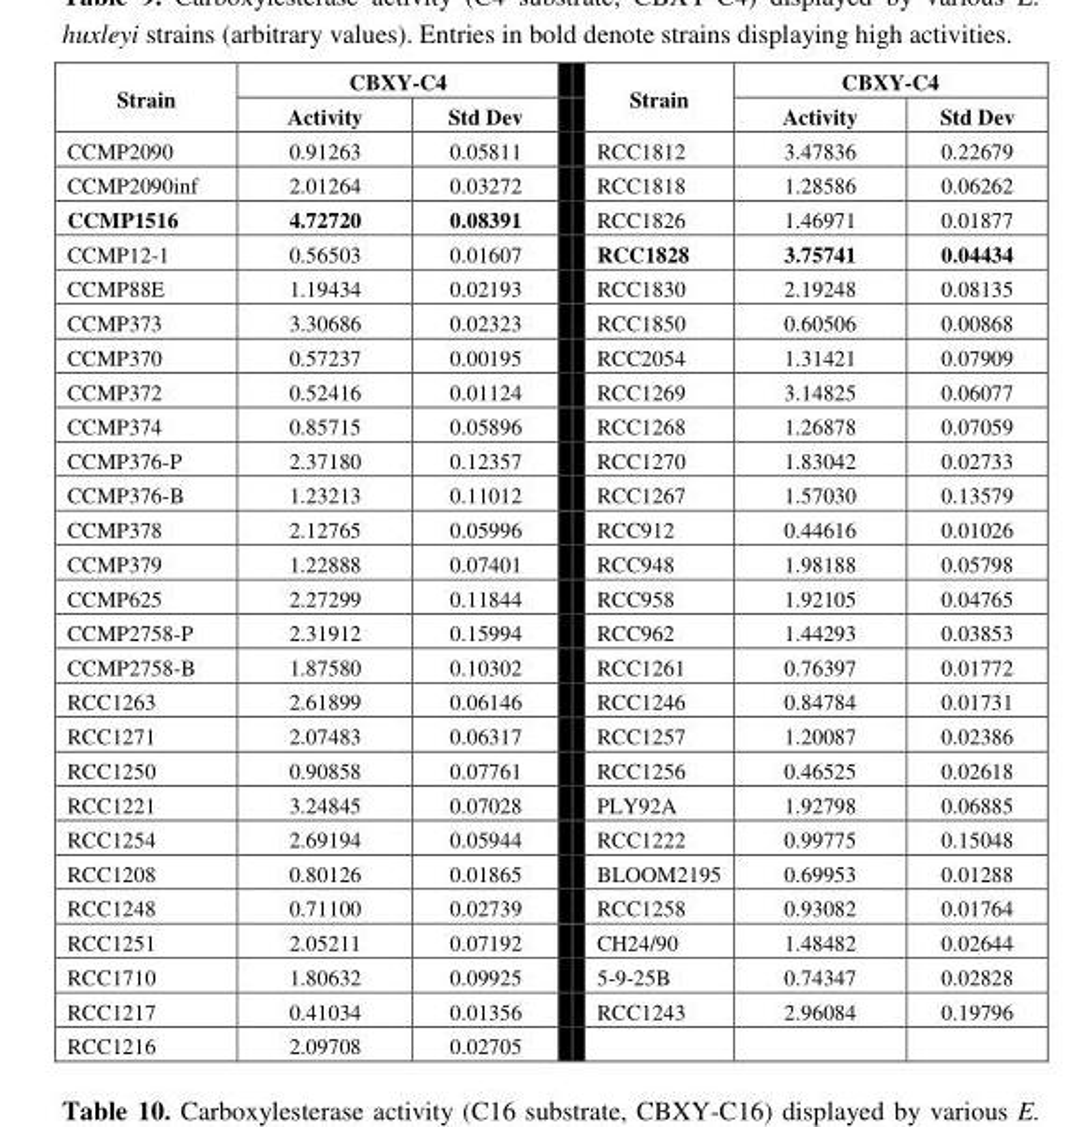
<table><thead><tr><td rowspan="2">Strain</td><td colspan="2">CBXY-C4</td><td rowspan="2">Strain</td><td colspan="2">CBXY-C4</td></tr><tr><td>Activity</td><td>Std Dev</td><td>Activity</td><td>Std Dev</td></tr></thead><tbody><tr><td>CCMP2090</td><td>0.91263</td><td>0.05811</td><td>RCC1812</td><td>3.47836</td><td>0.22679</td></tr><tr><td>CCMP2090inf</td><td>2.01264</td><td>0.03272</td><td>RCC1818</td><td>1.28586</td><td>0.06262</td></tr><tr><td>CCMP1516</td><td>4.72720</td><td>0.08391</td><td>RCC1826</td><td>1.46971</td><td>0.01877</td></tr><tr><td>CCMP12-1</td><td>0.56503</td><td>0.01607</td><td>RCC1828</td><td>3.75741</td><td>0.04434</td></tr><tr><td>CCMP88E</td><td>1.19434</td><td>0.02193</td><td>RCC1830</td><td>2.19248</td><td>0.08135</td></tr><tr><td>CCMP373</td><td>3.30686</td><td>0.02323</td><td>RCC1850</td><td>0.60506</td><td>0.00868</td></tr><tr><td>CCMP370</td><td>0.57237</td><td>0.00195</td><td>RCC2054</td><td>1.31421</td><td>0.07909</td></tr><tr><td>CCMP372</td><td>0.52416</td><td>0.01124</td><td>RCC1269</td><td>3.14825</td><td>0.06077</td></tr><tr><td>CCMP374</td><td>0.85715</td><td>0.05896</td><td>RCC1268</td><td>1.26878</td><td>0.07059</td></tr><tr><td>CCMP376-P</td><td>2.37180</td><td>0.12357</td><td>RCC1270</td><td>1.83042</td><td>0.02733</td></tr><tr><td>CCMP376-B</td><td>1.23213</td><td>0.11012</td><td>RCC1267</td><td>1.57030</td><td>0.13579</td></tr><tr><td>CCMP378</td><td>2.12765</td><td>0.05996</td><td>RCC912</td><td>0.44616</td><td>0.01026</td></tr><tr><td>CCMP379</td><td>1.22888</td><td>0.07401</td><td>RCC948</td><td>1.98188</td><td>0.05798</td></tr><tr><td>CCMP625</td><td>2.27299</td><td>0.11844</td><td>RCC958</td><td>1.92105</td><td>0.04765</td></tr><tr><td>CCMP2758-P</td><td>2.31912</td><td>0.15994</td><td>RCC962</td><td>1.44293</td><td>0.03853</td></tr><tr><td>CCMP2758-B</td><td>1.87580</td><td>0.10302</td><td>RCC1261</td><td>0.76397</td><td>0.01772</td></tr><tr><td>RCC1263</td><td>2.61899</td><td>0.06146</td><td>RCC1246</td><td>0.84784</td><td>0.01731</td></tr><tr><td>RCC1271</td><td>2.07483</td><td>0.06317</td><td>RCC1257</td><td>1.20087</td><td>0.02386</td></tr><tr><td>RCC1250</td><td>0.90858</td><td>0.07761</td><td>RCC1256</td><td>0.46525</td><td>0.02618</td></tr><tr><td>RCC1221</td><td>3.24845</td><td>0.07028</td><td>PLY92A</td><td>1.92798</td><td>0.06885</td></tr><tr><td>RCC1254</td><td>2.69194</td><td>0.05944</td><td>RCC1222</td><td>0.99775</td><td>0.15048</td></tr><tr><td>RCC1208</td><td>0.80126</td><td>0.01865</td><td>BLOOM2195</td><td>0.69953</td><td>0.01288</td></tr><tr><td>RCC1248</td><td>0.71100</td><td>0.02739</td><td>RCC1258</td><td>0.93082</td><td>0.01764</td></tr><tr><td>RCC1251</td><td>2.05211</td><td>0.07192</td><td>CH24/90</td><td>1.48482</td><td>0.02644</td></tr><tr><td>RCC1710</td><td>1.80632</td><td>0.09925</td><td>5-9-25B</td><td>0.74347</td><td>0.02828</td></tr><tr><td>RCC1217</td><td>0.41034</td><td>0.01356</td><td>RCC1243</td><td>2.96084</td><td>0.19796</td></tr><tr><td>RCC1216</td><td>2.09708</td><td>0.02705</td><td></td><td></td><td></td></tr></tbody></table>